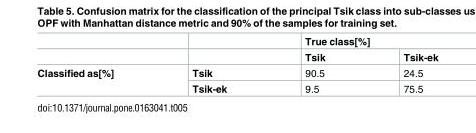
<table><thead><tr><td rowspan="2"></td><td rowspan="2"></td><td colspan="2">True class[%]</td></tr><tr><td>Tsik</td><td>Tsik-ek</td></tr></thead><tbody><tr><td rowspan="2">Classified as[%]</td><td>Tsik</td><td>90.5</td><td>24.5</td></tr><tr><td>Tsik-ek</td><td>9.5</td><td>75.5</td></tr></tbody></table>